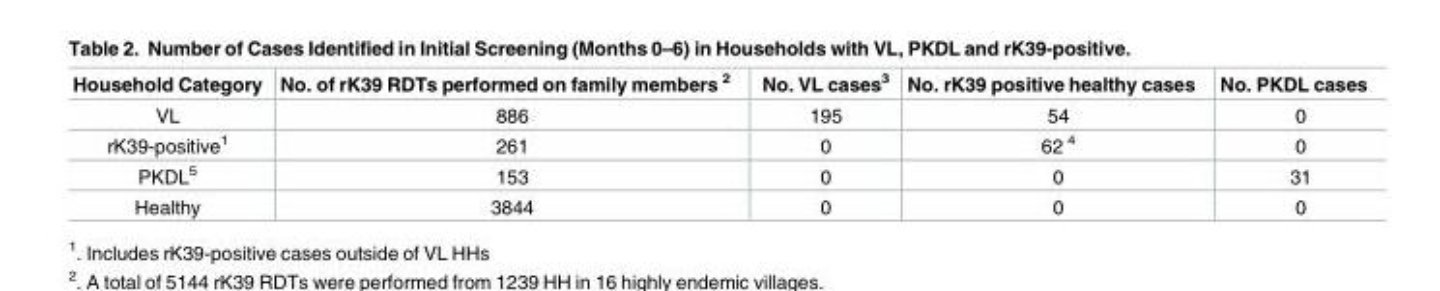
<table><thead><tr><td>Household Category</td><td>No. of rK39 RDTs performed on family members <sup>2</sup></td><td>No. VL cases<sup>3</sup></td><td>No. rK39 positive healthy cases</td><td>No. PKDL cases</td></tr></thead><tbody><tr><td>VL</td><td>886</td><td>195</td><td>54</td><td>0</td></tr><tr><td>rK39-positive<sup>1</sup></td><td>261</td><td>0</td><td>62 <sup>4</sup></td><td>0</td></tr><tr><td>PKDL<sup>5</sup></td><td>153</td><td>0</td><td>0</td><td>31</td></tr><tr><td>Healthy</td><td>3844</td><td>0</td><td>0</td><td>0</td></tr></tbody></table>